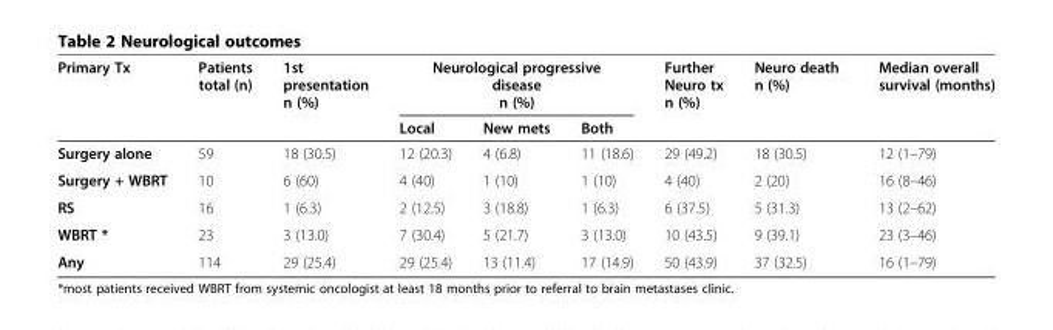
<table><thead><tr><td rowspan="2">Primary Tx</td><td rowspan="2">Patients total (n)</td><td rowspan="2">1st presentation n (%)</td><td colspan="3">Neurological progressive disease n (%)</td><td rowspan="2">Further Neuro tx n (%)</td><td rowspan="2">Neuro death n (%)</td><td rowspan="2">Median overall survival (months)</td></tr><tr><td>Local</td><td>New mets</td><td>Both</td></tr></thead><tbody><tr><td>Surgery alone</td><td>59</td><td>18 (30.5)</td><td>12 (20.3)</td><td>4 (6.8)</td><td>11 (18.6)</td><td>29 (49.2)</td><td>18 (30.5)</td><td>12 (1–79)</td></tr><tr><td>Surgery + WBRT</td><td>10</td><td>6 (60)</td><td>4 (40)</td><td>1 (10)</td><td>1 (10)</td><td>4 (40)</td><td>2 (20)</td><td>16 (8–46)</td></tr><tr><td>RS</td><td>16</td><td>1 (6.3)</td><td>2 (12.5)</td><td>3 (18.8)</td><td>1 (6.3)</td><td>6 (37.5)</td><td>5 (31.3)</td><td>13 (2–62)</td></tr><tr><td>WBRT *</td><td>23</td><td>3 (13.0)</td><td>7 (30.4)</td><td>5 (21.7)</td><td>3 (13.0)</td><td>10 (43.5)</td><td>9 (39.1)</td><td>23 (3–46)</td></tr><tr><td>Any</td><td>114</td><td>29 (25.4)</td><td>29 (25.4)</td><td>13 (11.4)</td><td>17 (14.9)</td><td>50 (43.9)</td><td>37 (32.5)</td><td>16 (1–79)</td></tr></tbody></table>